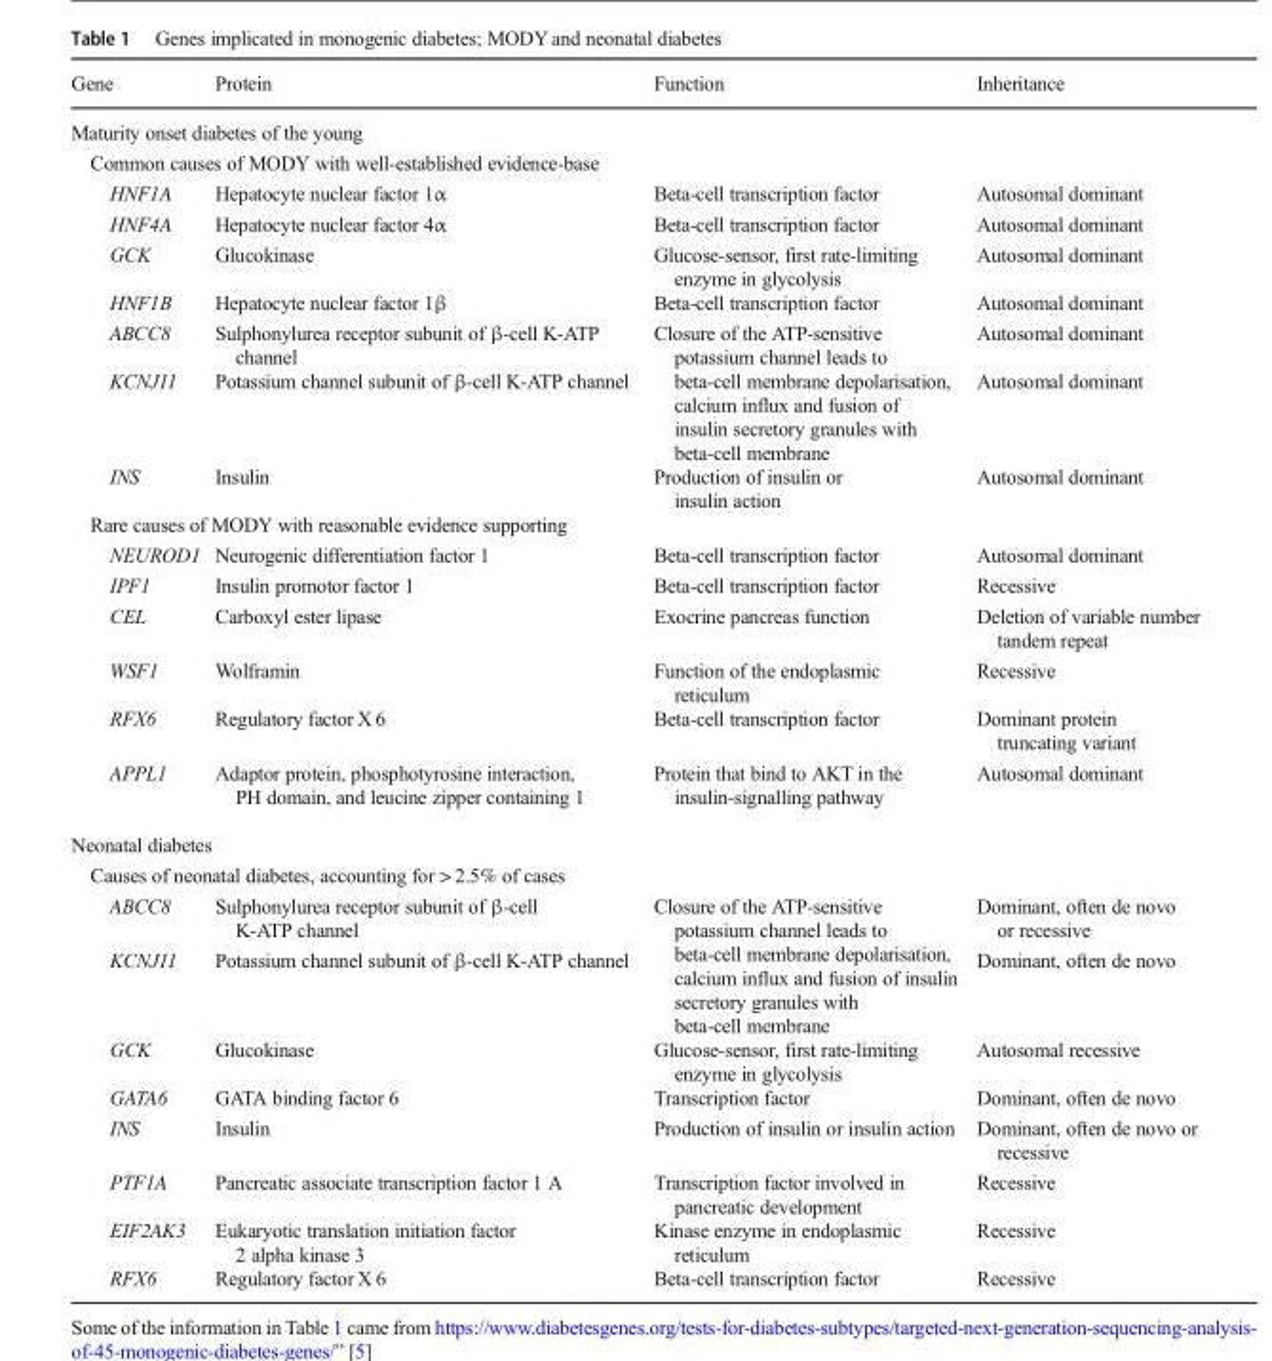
<table><thead><tr><td>Gene</td><td>Protein</td><td>Function</td><td>Inheritance</td></tr></thead><tbody><tr><td colspan="4">Maturity onset diabetes of the young</td></tr><tr><td colspan="4">Common causes of MODY with well-established evidence-base</td></tr><tr><td>HNF1A</td><td>Hepatocyte nuclear factor 1α</td><td>Beta-cell transcription factor</td><td>Autosomal dominant</td></tr><tr><td>HNF4A</td><td>Hepatocyte nuclear factor 4α</td><td>Beta-cell transcription factor</td><td>Autosomal dominant</td></tr><tr><td>GCK</td><td>Glucokinase</td><td>Glucose-sensor, first rate-limiting enzyme in glycolysis</td><td>Autosomal dominant</td></tr><tr><td>HNF1B</td><td>Hepatocyte nuclear factor 1β</td><td>Beta-cell transcription factor</td><td>Autosomal dominant</td></tr><tr><td>ABCC8</td><td>Sulphonylurea receptor subunit of β-cell K-ATP channel</td><td rowspan="2">Closure of the ATP-sensitive potassium channel leads to beta-cell membrane depolarisation, calcium influx and fusion of insulin secretory granules with beta-cell membrane</td><td>Autosomal dominant</td></tr><tr><td>KCNJ11</td><td>Potassium channel subunit of β-cell K-ATP channel</td><td>Autosomal dominant</td></tr><tr><td>INS</td><td>Insulin</td><td>Production of insulin or insulin action</td><td>Autosomal dominant</td></tr><tr><td colspan="4">Rare causes of MODY with reasonable evidence supporting</td></tr><tr><td>NEUROD1</td><td>Neurogenic differentiation factor 1</td><td>Beta-cell transcription factor</td><td>Autosomal dominant</td></tr><tr><td>IPF1</td><td>Insulin promotor factor 1</td><td>Beta-cell transcription factor</td><td>Recessive</td></tr><tr><td>CEL</td><td>Carboxyl ester lipase</td><td>Exocrine pancreas function</td><td>Deletion of variable number tandem repeat</td></tr><tr><td>WSF1</td><td>Wolframin</td><td>Function of the endoplasmic reticulum</td><td>Recessive</td></tr><tr><td>RFX6</td><td>Regulatory factor X 6</td><td>Beta-cell transcription factor</td><td>Dominant protein truncating variant</td></tr><tr><td>APPL1</td><td>Adaptor protein, phosphotyrosine interaction, PH domain, and leucine zipper containing 1</td><td>Protein that bind to AKT in the insulin-signalling pathway</td><td>Autosomal dominant</td></tr><tr><td colspan="4">Neonatal diabetes</td></tr><tr><td colspan="4">Causes of neonatal diabetes, accounting for &gt; 2.5% of cases</td></tr><tr><td>ABCC8</td><td>Sulphonylurea receptor subunit of β-cell K-ATP channel</td><td rowspan="2">Closure of the ATP-sensitive potassium channel leads to beta-cell membrane depolarisation, calcium influx and fusion of insulin secretory granules with beta-cell membrane</td><td>Dominant, often de novo or recessive</td></tr><tr><td>KCNJ11</td><td>Potassium channel subunit of β-cell K-ATP channel</td><td>Dominant, often de novo</td></tr><tr><td>GCK</td><td>Glucokinase</td><td>Glucose-sensor, first rate-limiting enzyme in glycolysis</td><td>Autosomal recessive</td></tr><tr><td>GATA6</td><td>GATA binding factor 6</td><td>Transcription factor</td><td>Dominant, often de novo</td></tr><tr><td>INS</td><td>Insulin</td><td>Production of insulin or insulin action</td><td>Dominant, often de novo or recessive</td></tr><tr><td>PTF1A</td><td>Pancreatic associate transcription factor 1 A</td><td>Transcription factor involved in pancreatic development</td><td>Recessive</td></tr><tr><td>EIF2AK3</td><td>Eukaryotic translation initiation factor 2 alpha kinase 3</td><td>Kinase enzyme in endoplasmic reticulum</td><td>Recessive</td></tr><tr><td>RFX6</td><td>Regulatory factor X 6</td><td>Beta-cell transcription factor</td><td>Recessive</td></tr></tbody></table>